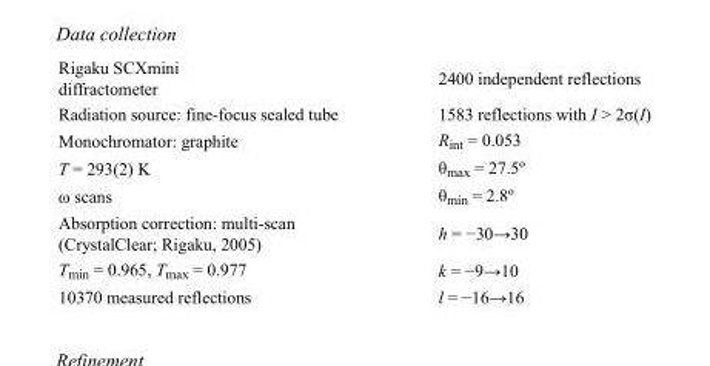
<table><tbody><tr><td>Rigaku SCXmini diffractometer</td><td>2400 independent reflections</td></tr><tr><td>Radiation source: fine-focus sealed tube</td><td>1583 reflections with I &gt; 2σ(I)</td></tr><tr><td>Monochromator: graphite</td><td>R<sub>int</sub> = 0.053</td></tr><tr><td>T = 293(2) K</td><td>θ<sub>max</sub> = 27.5º</td></tr><tr><td>ω scans</td><td>θ<sub>min</sub> = 2.8º</td></tr><tr><td>Absorption correction: multi-scan (CrystalClear; Rigaku, 2005)</td><td>h = −30→30</td></tr><tr><td>T<sub>min</sub> = 0.965, T<sub>max</sub> = 0.977</td><td>k = −9→10</td></tr><tr><td>10370 measured reflections</td><td>l = −16→16</td></tr></tbody></table>